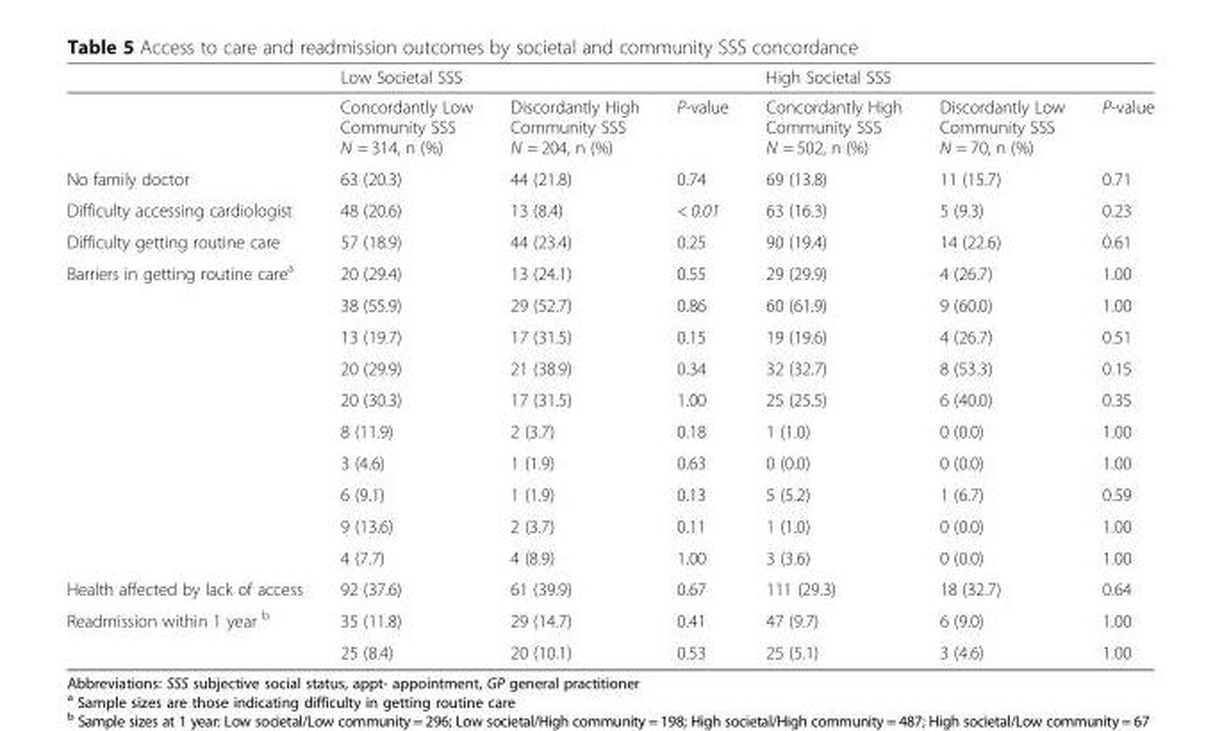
<table><thead><tr><td rowspan="2"></td><td colspan="3">Low Societal SSS</td><td colspan="3">High Societal SSS</td></tr><tr><td>Concordantly Low Community SSS N = 314, n (%)</td><td>Discordantly High Community SSS N = 204, n (%)</td><td>P-value</td><td>Concordantly High Community SSS N = 502, n (%)</td><td>Discordantly Low Community SSS N = 70, n (%)</td><td>P-value</td></tr></thead><tbody><tr><td>No family doctor</td><td>63 (20.3)</td><td>44 (21.8)</td><td>0.74</td><td>69 (13.8)</td><td>11 (15.7)</td><td>0.71</td></tr><tr><td>Difficulty accessing cardiologist</td><td>48 (20.6)</td><td>13 (8.4)</td><td>&lt; 0.01</td><td>63 (16.3)</td><td>5 (9.3)</td><td>0.23</td></tr><tr><td>Difficulty getting routine care</td><td>57 (18.9)</td><td>44 (23.4)</td><td>0.25</td><td>90 (19.4)</td><td>14 (22.6)</td><td>0.61</td></tr><tr><td rowspan="10">Barriers in getting routine care<sup>a</sup></td><td>20 (29.4)</td><td>13 (24.1)</td><td>0.55</td><td>29 (29.9)</td><td>4 (26.7)</td><td>1.00</td></tr><tr><td>38 (55.9)</td><td>29 (52.7)</td><td>0.86</td><td>60 (61.9)</td><td>9 (60.0)</td><td>1.00</td></tr><tr><td>13 (19.7)</td><td>17 (31.5)</td><td>0.15</td><td>19 (19.6)</td><td>4 (26.7)</td><td>0.51</td></tr><tr><td>20 (29.9)</td><td>21 (38.9)</td><td>0.34</td><td>32 (32.7)</td><td>8 (53.3)</td><td>0.15</td></tr><tr><td>20 (30.3)</td><td>17 (31.5)</td><td>1.00</td><td>25 (25.5)</td><td>6 (40.0)</td><td>0.35</td></tr><tr><td>8 (11.9)</td><td>2 (3.7)</td><td>0.18</td><td>1 (1.0)</td><td>0 (0.0)</td><td>1.00</td></tr><tr><td>3 (4.6)</td><td>1 (1.9)</td><td>0.63</td><td>0 (0.0)</td><td>0 (0.0)</td><td>1.00</td></tr><tr><td>6 (9.1)</td><td>1 (1.9)</td><td>0.13</td><td>5 (5.2)</td><td>1 (6.7)</td><td>0.59</td></tr><tr><td>9 (13.6)</td><td>2 (3.7)</td><td>0.11</td><td>1 (1.0)</td><td>0 (0.0)</td><td>1.00</td></tr><tr><td>4 (7.7)</td><td>4 (8.9)</td><td>1.00</td><td>3 (3.6)</td><td>0 (0.0)</td><td>1.00</td></tr><tr><td>Health affected by lack of access</td><td>92 (37.6)</td><td>61 (39.9)</td><td>0.67</td><td>111 (29.3)</td><td>18 (32.7)</td><td>0.64</td></tr><tr><td rowspan="2">Readmission within 1 year <sup>b</sup></td><td>35 (11.8)</td><td>29 (14.7)</td><td>0.41</td><td>47 (9.7)</td><td>6 (9.0)</td><td>1.00</td></tr><tr><td>25 (8.4)</td><td>20 (10.1)</td><td>0.53</td><td>25 (5.1)</td><td>3 (4.6)</td><td>1.00</td></tr></tbody></table>